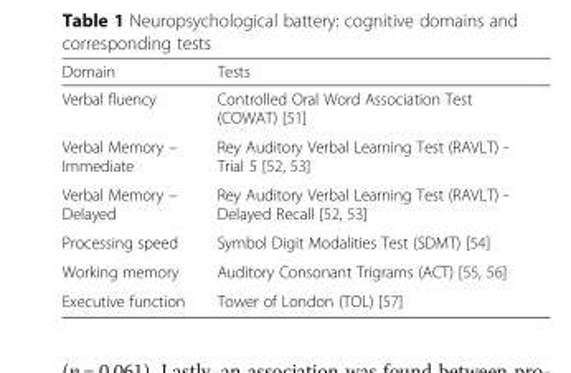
<table><thead><tr><td>Domain</td><td>Tests</td></tr></thead><tbody><tr><td>Verbal fluency</td><td>Controlled Oral Word Association Test (COWAT) [51]</td></tr><tr><td>Verbal Memory – Immediate</td><td>Rey Auditory Verbal Learning Test (RAVLT) - Trial 5 [52, 53]</td></tr><tr><td>Verbal Memory – Delayed</td><td>Rey Auditory Verbal Learning Test (RAVLT) - Delayed Recall [52, 53]</td></tr><tr><td>Processing speed</td><td>Symbol Digit Modalities Test (SDMT) [54]</td></tr><tr><td>Working memory</td><td>Auditory Consonant Trigrams (ACT) [55, 56]</td></tr><tr><td>Executive function</td><td>Tower of London (TOL) [57]</td></tr></tbody></table>